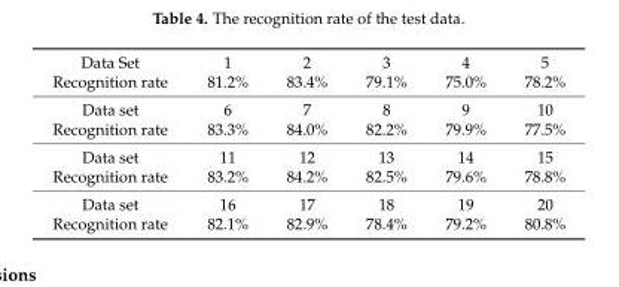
<table><tbody><tr><td>Data Set</td><td>1</td><td>2</td><td>3</td><td>4</td><td>5</td></tr><tr><td>Recognition rate</td><td>81.2%</td><td>83.4%</td><td>79.1%</td><td>75.0%</td><td>78.2%</td></tr><tr><td>Data set</td><td>6</td><td>7</td><td>8</td><td>9</td><td>10</td></tr><tr><td>Recognition rate</td><td>83.3%</td><td>84.0%</td><td>82.2%</td><td>79.9%</td><td>77.5%</td></tr><tr><td>Data set</td><td>11</td><td>12</td><td>13</td><td>14</td><td>15</td></tr><tr><td>Recognition rate</td><td>83.2%</td><td>84.2%</td><td>82.5%</td><td>79.6%</td><td>78.8%</td></tr><tr><td>Data set</td><td>16</td><td>17</td><td>18</td><td>19</td><td>20</td></tr><tr><td>Recognition rate</td><td>82.1%</td><td>82.9%</td><td>78.4%</td><td>79.2%</td><td>80.8%</td></tr></tbody></table>